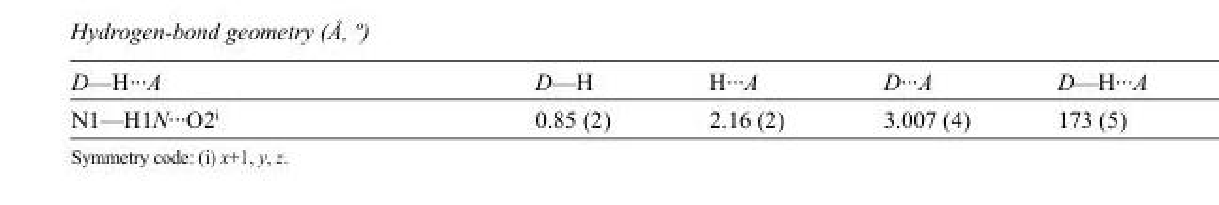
<table><tbody><tr><td>D—H···A</td><td>D—H</td><td>H···A</td><td>D···A</td><td>D—H···A</td></tr><tr><td>N1—H1N···O2<sup>i</sup></td><td>0.85 (2)</td><td>2.16 (2)</td><td>3.007 (4)</td><td>173 (5)</td></tr></tbody></table>